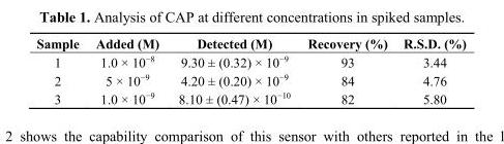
<table><thead><tr><td>Sample</td><td>Added (M)</td><td>Detected (M)</td><td>Recovery (%)</td><td>R.S.D. (%)</td></tr></thead><tbody><tr><td>1</td><td>1.0 × 10<sup>−8</sup></td><td>9.30 ± (0.32) × 10<sup>−9</sup></td><td>93</td><td>3.44</td></tr><tr><td>2</td><td>5 × 10<sup>−9</sup></td><td>4.20 ± (0.20) × 10<sup>−9</sup></td><td>84</td><td>4.76</td></tr><tr><td>3</td><td>1.0 × 10<sup>−9</sup></td><td>8.10 ± (0.47) × 10<sup>−10</sup></td><td>82</td><td>5.80</td></tr></tbody></table>